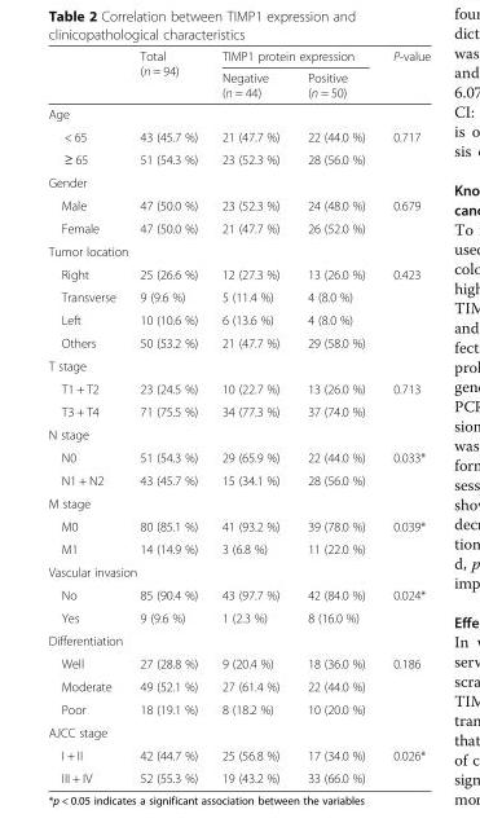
<table><thead><tr><td rowspan="2"></td><td rowspan="2">Total (n = 94)</td><td colspan="2">TIMP1 protein expression</td><td rowspan="2">P-value</td></tr><tr><td>Negative (n = 44)</td><td>Positive (n = 50)</td></tr></thead><tbody><tr><td colspan="5">Age</td></tr><tr><td>&lt; 65</td><td>43 (45.7 %)</td><td>21 (47.7 %)</td><td>22 (44.0 %)</td><td>0.717</td></tr><tr><td>≥ 65</td><td>51 (54.3 %)</td><td>23 (52.3 %)</td><td>28 (56.0 %)</td><td></td></tr><tr><td colspan="5">Gender</td></tr><tr><td>Male</td><td>47 (50.0 %)</td><td>23 (52.3 %)</td><td>24 (48.0 %)</td><td>0.679</td></tr><tr><td>Female</td><td>47 (50.0 %)</td><td>21 (47.7 %)</td><td>26 (52.0 %)</td><td></td></tr><tr><td colspan="5">Tumor location</td></tr><tr><td>Right</td><td>25 (26.6 %)</td><td>12 (27.3 %)</td><td>13 (26.0 %)</td><td>0.423</td></tr><tr><td>Transverse</td><td>9 (9.6 %)</td><td>5 (11.4 %)</td><td>4 (8.0 %)</td><td></td></tr><tr><td>Left</td><td>10 (10.6 %)</td><td>6 (13.6 %)</td><td>4 (8.0 %)</td><td></td></tr><tr><td>Others</td><td>50 (53.2 %)</td><td>21 (47.7 %)</td><td>29 (58.0 %)</td><td></td></tr><tr><td colspan="5">T stage</td></tr><tr><td>T1 + T2</td><td>23 (24.5 %)</td><td>10 (22.7 %)</td><td>13 (26.0 %)</td><td>0.713</td></tr><tr><td>T3 + T4</td><td>71 (75.5 %)</td><td>34 (77.3 %)</td><td>37 (74.0 %)</td><td></td></tr><tr><td colspan="5">N stage</td></tr><tr><td>N0</td><td>51 (54.3 %)</td><td>29 (65.9 %)</td><td>22 (44.0 %)</td><td>0.033*</td></tr><tr><td>N1 + N2</td><td>43 (45.7 %)</td><td>15 (34.1 %)</td><td>28 (56.0 %)</td><td></td></tr><tr><td colspan="5">M stage</td></tr><tr><td>M0</td><td>80 (85.1 %)</td><td>41 (93.2 %)</td><td>39 (78.0 %)</td><td>0.039*</td></tr><tr><td>M1</td><td>14 (14.9 %)</td><td>3 (6.8 %)</td><td>11 (22.0 %)</td><td></td></tr><tr><td colspan="5">Vascular invasion</td></tr><tr><td>No</td><td>85 (90.4 %)</td><td>43 (97.7 %)</td><td>42 (84.0 %)</td><td>0.024*</td></tr><tr><td>Yes</td><td>9 (9.6 %)</td><td>1 (2.3 %)</td><td>8 (16.0 %)</td><td></td></tr><tr><td colspan="5">Differentiation</td></tr><tr><td>Well</td><td>27 (28.8 %)</td><td>9 (20.4 %)</td><td>18 (36.0 %)</td><td>0.186</td></tr><tr><td>Moderate</td><td>49 (52.1 %)</td><td>27 (61.4 %)</td><td>22 (44.0 %)</td><td></td></tr><tr><td>Poor</td><td>18 (19.1 %)</td><td>8 (18.2 %)</td><td>10 (20.0 %)</td><td></td></tr><tr><td colspan="5">AJCC stage</td></tr><tr><td>I + II</td><td>42 (44.7 %)</td><td>25 (56.8 %)</td><td>17 (34.0 %)</td><td>0.026*</td></tr><tr><td>III + IV</td><td>52 (55.3 %)</td><td>19 (43.2 %)</td><td>33 (66.0 %)</td><td></td></tr></tbody></table>